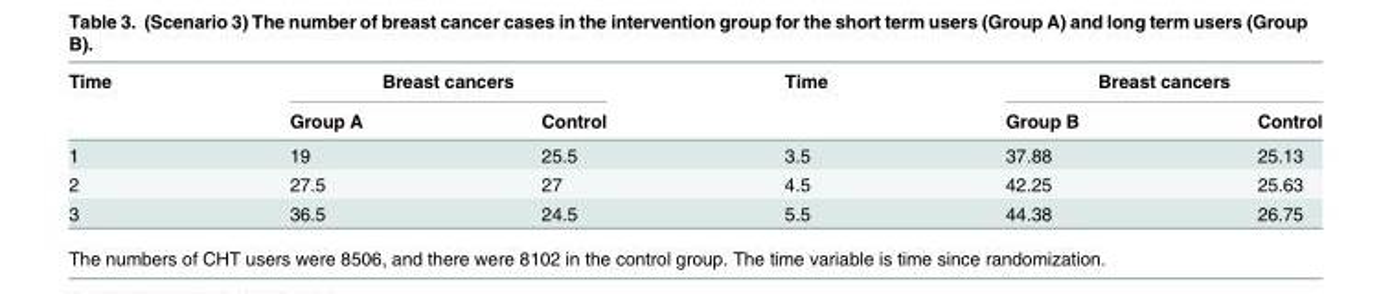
<table><thead><tr><td rowspan="2">Time</td><td colspan="2">Breast cancers</td><td rowspan="2">Time</td><td colspan="2">Breast cancers</td></tr><tr><td>Group A</td><td>Control</td><td>Group B</td><td>Control</td></tr></thead><tbody><tr><td>1</td><td>19</td><td>25.5</td><td>3.5</td><td>37.88</td><td>25.13</td></tr><tr><td>2</td><td>27.5</td><td>27</td><td>4.5</td><td>42.25</td><td>25.63</td></tr><tr><td>3</td><td>36.5</td><td>24.5</td><td>5.5</td><td>44.38</td><td>26.75</td></tr></tbody></table>